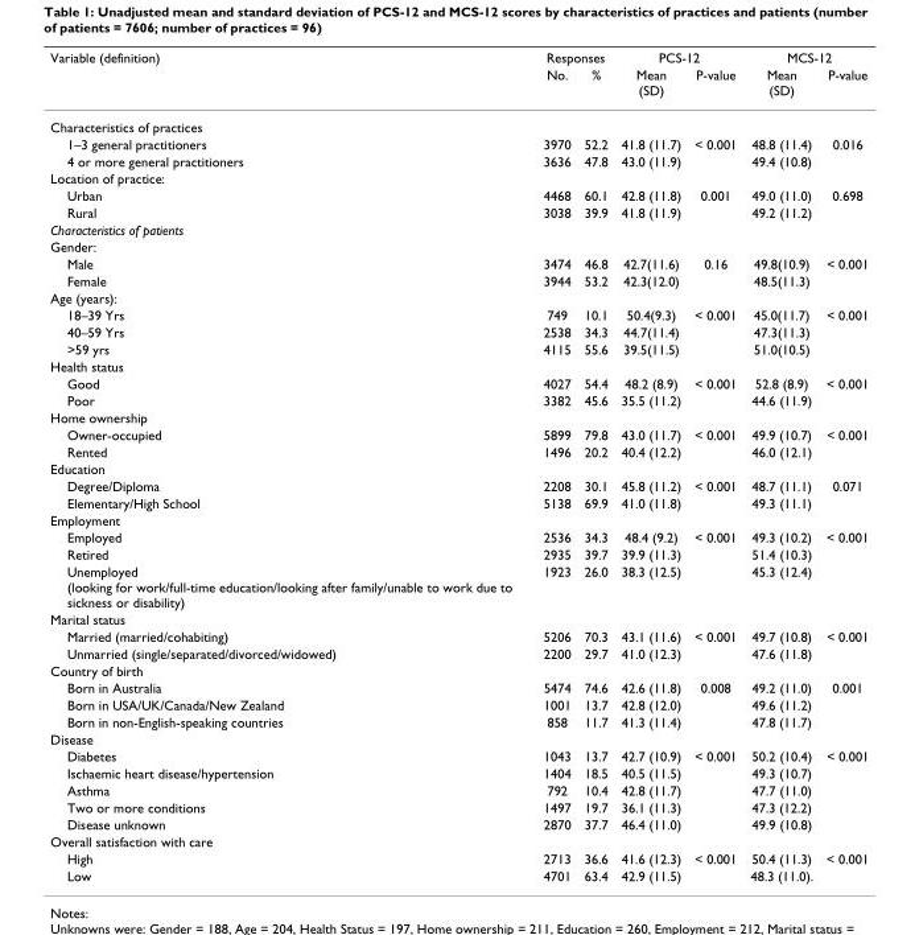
<table><thead><tr><td rowspan="2">Variable (definition)</td><td colspan="2">Responses</td><td colspan="2">PCS-12</td><td colspan="2">MCS-12</td></tr><tr><td>No.</td><td>%</td><td>Mean (SD)</td><td>P-value</td><td>Mean (SD)</td><td>P-value</td></tr></thead><tbody><tr><td colspan="7">Characteristics of practices</td></tr><tr><td>1–3 general practitioners</td><td>3970</td><td>52.2</td><td>41.8 (11.7)</td><td>&lt; 0.001</td><td>48.8 (11.4)</td><td>0.016</td></tr><tr><td>4 or more general practitioners</td><td>3636</td><td>47.8</td><td>43.0 (11.9)</td><td></td><td>49.4 (10.8)</td><td></td></tr><tr><td colspan="7">Location of practice:</td></tr><tr><td>Urban</td><td>4468</td><td>60.1</td><td>42.8 (11.8)</td><td>0.001</td><td>49.0 (11.0)</td><td>0.698</td></tr><tr><td>Rural</td><td>3038</td><td>39.9</td><td>41.8 (11.9)</td><td></td><td>49.2 (11.2)</td><td></td></tr><tr><td colspan="7">Characteristics of patients</td></tr><tr><td colspan="7">Gender:</td></tr><tr><td>Male</td><td>3474</td><td>46.8</td><td>42.7(11.6)</td><td>0.16</td><td>49.8(10.9)</td><td>&lt; 0.001</td></tr><tr><td>Female</td><td>3944</td><td>53.2</td><td>42.3(12.0)</td><td></td><td>48.5(11.3)</td><td></td></tr><tr><td colspan="7">Age (years):</td></tr><tr><td>18–39 Yrs</td><td>749</td><td>10.1</td><td>50.4(9.3)</td><td>&lt; 0.001</td><td>45.0(11.7)</td><td>&lt; 0.001</td></tr><tr><td>40–59 Yrs</td><td>2538</td><td>34.3</td><td>44.7(11.4)</td><td></td><td>47.3(11.3)</td><td></td></tr><tr><td>&gt;59 yrs</td><td>4115</td><td>55.6</td><td>39.5(11.5)</td><td></td><td>51.0(10.5)</td><td></td></tr><tr><td colspan="7">Health status</td></tr><tr><td>Good</td><td>4027</td><td>54.4</td><td>48.2 (8.9)</td><td>&lt; 0.001</td><td>52.8 (8.9)</td><td>&lt; 0.001</td></tr><tr><td>Poor</td><td>3382</td><td>45.6</td><td>35.5 (11.2)</td><td></td><td>44.6 (11.9)</td><td></td></tr><tr><td colspan="7">Home ownership</td></tr><tr><td>Owner-occupied</td><td>5899</td><td>79.8</td><td>43.0 (11.7)</td><td>&lt; 0.001</td><td>49.9 (10.7)</td><td>&lt; 0.001</td></tr><tr><td>Rented</td><td>1496</td><td>20.2</td><td>40.4 (12.2)</td><td></td><td>46.0 (12.1)</td><td></td></tr><tr><td colspan="7">Education</td></tr><tr><td>Degree/Diploma</td><td>2208</td><td>30.1</td><td>45.8 (11.2)</td><td>&lt; 0.001</td><td>48.7 (11.1)</td><td>0.071</td></tr><tr><td>Elementary/High School</td><td>5138</td><td>69.9</td><td>41.0 (11.8)</td><td></td><td>49.3 (11.1)</td><td></td></tr><tr><td colspan="7">Employment</td></tr><tr><td>Employed</td><td>2536</td><td>34.3</td><td>48.4 (9.2)</td><td>&lt; 0.001</td><td>49.3 (10.2)</td><td>&lt; 0.001</td></tr><tr><td>Retired</td><td>2935</td><td>39.7</td><td>39.9 (11.3)</td><td></td><td>51.4 (10.3)</td><td></td></tr><tr><td>Unemployed (looking for work/full-time education/looking after family/unable to work due to sickness or disability)</td><td>1923</td><td>26.0</td><td>38.3 (12.5)</td><td></td><td>45.3 (12.4)</td><td></td></tr><tr><td colspan="7">Marital status</td></tr><tr><td>Married (married/cohabiting)</td><td>5206</td><td>70.3</td><td>43.1 (11.6)</td><td>&lt; 0.001</td><td>49.7 (10.8)</td><td>&lt; 0.001</td></tr><tr><td>Unmarried (single/separated/divorced/widowed)</td><td>2200</td><td>29.7</td><td>41.0 (12.3)</td><td></td><td>47.6 (11.8)</td><td></td></tr><tr><td colspan="7">Country of birth</td></tr><tr><td>Born in Australia</td><td>5474</td><td>74.6</td><td>42.6 (11.8)</td><td>0.008</td><td>49.2 (11.0)</td><td>0.001</td></tr><tr><td>Born in USA/UK/Canada/New Zealand</td><td>1001</td><td>13.7</td><td>42.8 (12.0)</td><td></td><td>49.6 (11.2)</td><td></td></tr><tr><td>Born in non-English-speaking countries</td><td>858</td><td>11.7</td><td>41.3 (11.4)</td><td></td><td>47.8 (11.7)</td><td></td></tr><tr><td colspan="7">Disease</td></tr><tr><td>Diabetes</td><td>1043</td><td>13.7</td><td>42.7 (10.9)</td><td>&lt; 0.001</td><td>50.2 (10.4)</td><td>&lt; 0.001</td></tr><tr><td>Ischaemic heart disease/hypertension</td><td>1404</td><td>18.5</td><td>40.5 (11.5)</td><td></td><td>49.3 (10.7)</td><td></td></tr><tr><td>Asthma</td><td>792</td><td>10.4</td><td>42.8 (11.7)</td><td></td><td>47.7 (11.0)</td><td></td></tr><tr><td>Two or more conditions</td><td>1497</td><td>19.7</td><td>36.1 (11.3)</td><td></td><td>47.3 (12.2)</td><td></td></tr><tr><td>Disease unknown</td><td>2870</td><td>37.7</td><td>46.4 (11.0)</td><td></td><td>49.9 (10.8)</td><td></td></tr><tr><td colspan="7">Overall satisfaction with care</td></tr><tr><td>High</td><td>2713</td><td>36.6</td><td>41.6 (12.3)</td><td>&lt; 0.001</td><td>50.4 (11.3)</td><td>&lt; 0.001</td></tr><tr><td>Low</td><td>4701</td><td>63.4</td><td>42.9 (11.5)</td><td></td><td>48.3 (11.0).</td><td></td></tr></tbody></table>